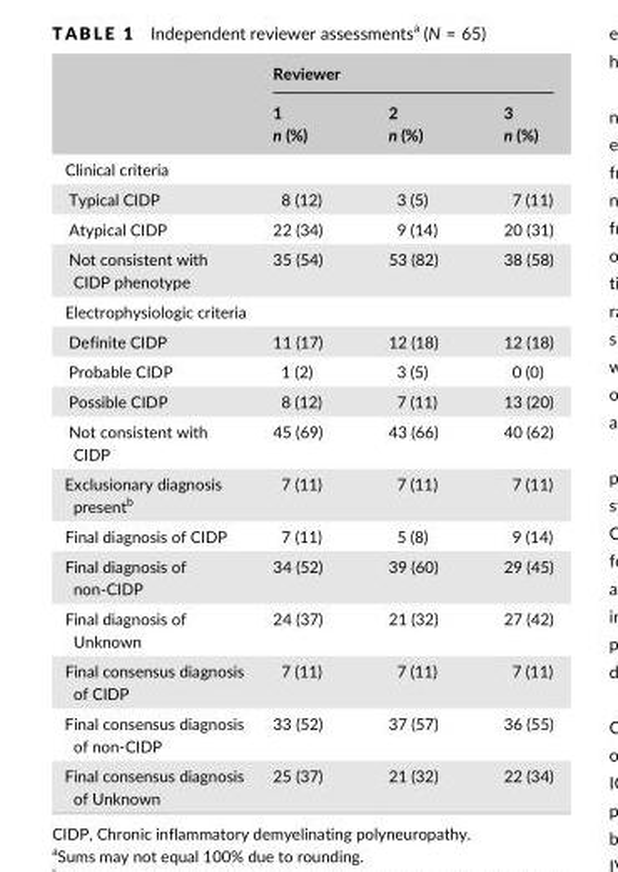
<table><thead><tr><td rowspan="2"></td><td colspan="3">Reviewer</td></tr><tr><td>1 n (%)</td><td>2 n (%)</td><td>3 n (%)</td></tr></thead><tbody><tr><td colspan="4">Clinical criteria</td></tr><tr><td>Typical CIDP</td><td>8 (12)</td><td>3 (5)</td><td>7 (11)</td></tr><tr><td>Atypical CIDP</td><td>22 (34)</td><td>9 (14)</td><td>20 (31)</td></tr><tr><td>Not consistent with CIDP phenotype</td><td>35 (54)</td><td>53 (82)</td><td>38 (58)</td></tr><tr><td colspan="4">Electrophysiologic criteria</td></tr><tr><td>Definite CIDP</td><td>11 (17)</td><td>12 (18)</td><td>12 (18)</td></tr><tr><td>Probable CIDP</td><td>1 (2)</td><td>3 (5)</td><td>0 (0)</td></tr><tr><td>Possible CIDP</td><td>8 (12)</td><td>7 (11)</td><td>13 (20)</td></tr><tr><td>Not consistent with CIDP</td><td>45 (69)</td><td>43 (66)</td><td>40 (62)</td></tr><tr><td>Exclusionary diagnosis present<sup>b</sup></td><td>7 (11)</td><td>7 (11)</td><td>7 (11)</td></tr><tr><td>Final diagnosis of CIDP</td><td>7 (11)</td><td>5 (8)</td><td>9 (14)</td></tr><tr><td>Final diagnosis of non- CIDP</td><td>34 (52)</td><td>39 (60)</td><td>29 (45)</td></tr><tr><td>Final diagnosis of Unknown</td><td>24 (37)</td><td>21 (32)</td><td>27 (42)</td></tr><tr><td>Final consensus diagnosis of CIDP</td><td>7 (11)</td><td>7 (11)</td><td>7 (11)</td></tr><tr><td>Final consensus diagnosis of non- CIDP</td><td>33 (52)</td><td>37 (57)</td><td>36 (55)</td></tr><tr><td>Final consensus diagnosis of Unknown</td><td>25 (37)</td><td>21 (32)</td><td>22 (34)</td></tr></tbody></table>